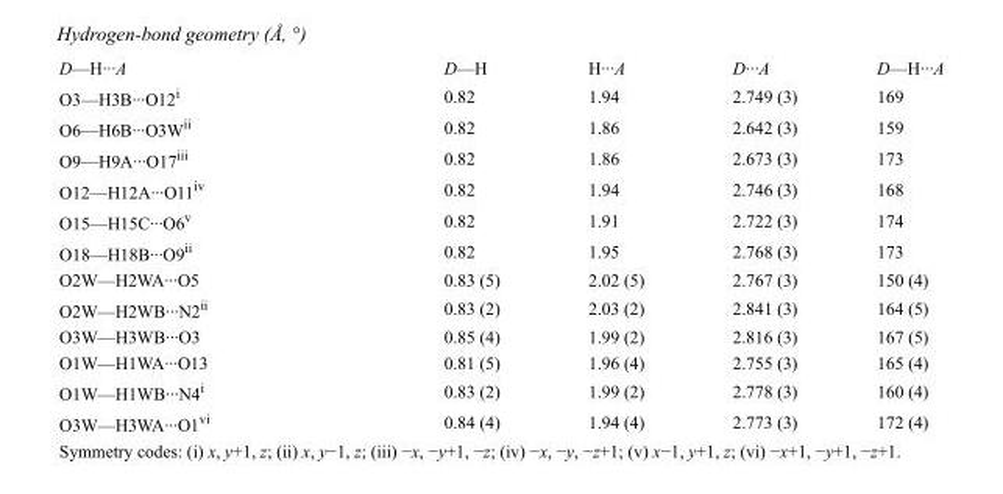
<table><tbody><tr><td>D—H···A</td><td>D—H</td><td>H···A</td><td>D···A</td><td>D—H···A</td></tr><tr><td>O3—H3B···O12<sup>i</sup></td><td>0.82</td><td>1.94</td><td>2.749 (3)</td><td>169</td></tr><tr><td>O6—H6B···O3W<sup>ii</sup></td><td>0.82</td><td>1.86</td><td>2.642 (3)</td><td>159</td></tr><tr><td>O9—H9A···O17<sup>iii</sup></td><td>0.82</td><td>1.86</td><td>2.673 (3)</td><td>173</td></tr><tr><td>O12—H12A···O11<sup>iv</sup></td><td>0.82</td><td>1.94</td><td>2.746 (3)</td><td>168</td></tr><tr><td>O15—H15C···O6<sup>v</sup></td><td>0.82</td><td>1.91</td><td>2.722 (3)</td><td>174</td></tr><tr><td>O18—H18B···O9<sup>ii</sup></td><td>0.82</td><td>1.95</td><td>2.768 (3)</td><td>173</td></tr><tr><td>O2W—H2WA···O5</td><td>0.83 (5)</td><td>2.02 (5)</td><td>2.767 (3)</td><td>150 (4)</td></tr><tr><td>O2W—H2WB···N2<sup>ii</sup></td><td>0.83 (2)</td><td>2.03 (2)</td><td>2.841 (3)</td><td>164 (5)</td></tr><tr><td>O3W—H3WB···O3</td><td>0.85 (4)</td><td>1.99 (2)</td><td>2.816 (3)</td><td>167 (5)</td></tr><tr><td>O1W—H1WA···O13</td><td>0.81 (5)</td><td>1.96 (4)</td><td>2.755 (3)</td><td>165 (4)</td></tr><tr><td>O1W—H1WB···N4<sup>i</sup></td><td>0.83 (2)</td><td>1.99 (2)</td><td>2.778 (3)</td><td>160 (4)</td></tr><tr><td>O3W—H3WA···O1<sup>vi</sup></td><td>0.84 (4)</td><td>1.94 (4)</td><td>2.773 (3)</td><td>172 (4)</td></tr></tbody></table>